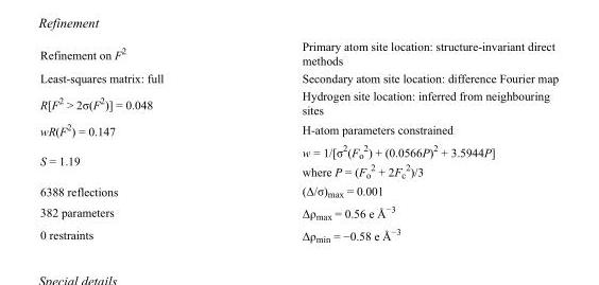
<table><tbody><tr><td>Refinement on F<sup>2</sup></td><td>Primary atom site location: structure-invariant direct methods</td></tr><tr><td>Least-squares matrix: full</td><td>Secondary atom site location: difference Fourier map</td></tr><tr><td>R[F<sup>2</sup> &gt; 2σ(F<sup>2</sup>)] = 0.048</td><td>Hydrogen site location: inferred from neighbouring sites</td></tr><tr><td>wR(F<sup>2</sup>) = 0.147</td><td>H-atom parameters constrained</td></tr><tr><td>S = 1.19</td><td>w = 1/[σ<sup>2</sup>(F<sub>o</sub> <sup>2</sup>) + (0.0566P)<sup>2</sup> + 3.5944P] where P = (F<sub>o</sub> <sup>2</sup> + 2F<sub>c</sub> <sup>2</sup>)/3</td></tr><tr><td>6388 reflections</td><td>(Δ/σ)<sub>max</sub> = 0.001</td></tr><tr><td>382 parameters</td><td>Δρ<sub>max</sub> = 0.56 e Å<sup>−3</sup></td></tr><tr><td>0 restraints</td><td>Δρ<sub>min</sub> = −0.58 e Å<sup>−3</sup></td></tr></tbody></table>